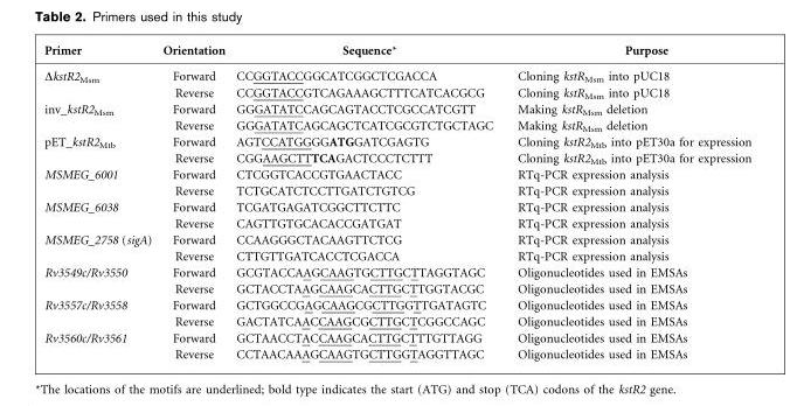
<table><thead><tr><td>Primer</td><td>Orientation</td><td>Sequence*</td><td>Purpose</td></tr></thead><tbody><tr><td rowspan="2">ΔkstR2<sub>Msm</sub></td><td>Forward</td><td>CCGGTACCGGCATCGGCTCGACCA</td><td>Cloning kstR<sub>Msm</sub> into pUC18</td></tr><tr><td>Reverse</td><td>CCGGTACCGTCAGAAAGCTTTCATCACGCG</td><td>Cloning kstR<sub>Msm</sub> into pUC18</td></tr><tr><td rowspan="2">inv_kstR2<sub>Msm</sub></td><td>Forward</td><td>GGGATATCCAGCAGTACCTCGCCATCGTT</td><td>Making kstR<sub>Msm</sub> deletion</td></tr><tr><td>Reverse</td><td>GGGATATCAGCAGCTCATCGCGTCTGCTAGC</td><td>Making kstR<sub>Msm</sub> deletion</td></tr><tr><td rowspan="2">pET_kstR2<sub>Mtb</sub></td><td>Forward</td><td>AGTCCATGGGGATGGATCGAGTG</td><td>Cloning kstR2<sub>Mtb</sub> into pET30a for expression</td></tr><tr><td>Reverse</td><td>CGGAAGCTTTCAGACTCCCTCTTT</td><td>Cloning kstR2<sub>Mtb</sub> into pET30a for expression</td></tr><tr><td rowspan="2">MSMEG_6001</td><td>Forward</td><td>CTCGGTCACCGTGAACTACC</td><td>RTq-PCR expression analysis</td></tr><tr><td>Reverse</td><td>TCTGCATCTCCTTGATCTGTCG</td><td>RTq-PCR expression analysis</td></tr><tr><td rowspan="2">MSMEG_6038</td><td>Forward</td><td>TCGATGAGATCGGCTTCTTC</td><td>RTq-PCR expression analysis</td></tr><tr><td>Reverse</td><td>CAGTTGTGCACACCGATGAT</td><td>RTq-PCR expression analysis</td></tr><tr><td rowspan="2">MSMEG_2758 (sigA)</td><td>Forward</td><td>CCAAGGGCTACAAGTTCTCG</td><td>RTq-PCR expression analysis</td></tr><tr><td>Reverse</td><td>CTTGTTGATCACCTCGACCA</td><td>RTq-PCR expression analysis</td></tr><tr><td rowspan="2">Rv3549c/Rv3550</td><td>Forward</td><td>GCGTACCAAGCAAGTGCTTGCTTAGGTAGC</td><td>Oligonucleotides used in EMSAs</td></tr><tr><td>Reverse</td><td>GCTACCTAAGCAAGCACTTGCTTGGTACGC</td><td>Oligonucleotides used in EMSAs</td></tr><tr><td rowspan="2">Rv3557c/Rv3558</td><td>Forward</td><td>GCTGGCCGAGCAAGCGCTTGGTTGATAGTC</td><td>Oligonucleotides used in EMSAs</td></tr><tr><td>Reverse</td><td>GACTATCAACCAAGCGCTTGCTCGGCCAGC</td><td>Oligonucleotides used in EMSAs</td></tr><tr><td rowspan="2">Rv3560c/Rv3561</td><td>Forward</td><td>GCTAACCTACCAAGCACTTGCTTTGTTAGG</td><td>Oligonucleotides used in EMSAs</td></tr><tr><td>Reverse</td><td>CCTAACAAAGCAAGTGCTTGGTAGGTTAGC</td><td>Oligonucleotides used in EMSAs</td></tr></tbody></table>